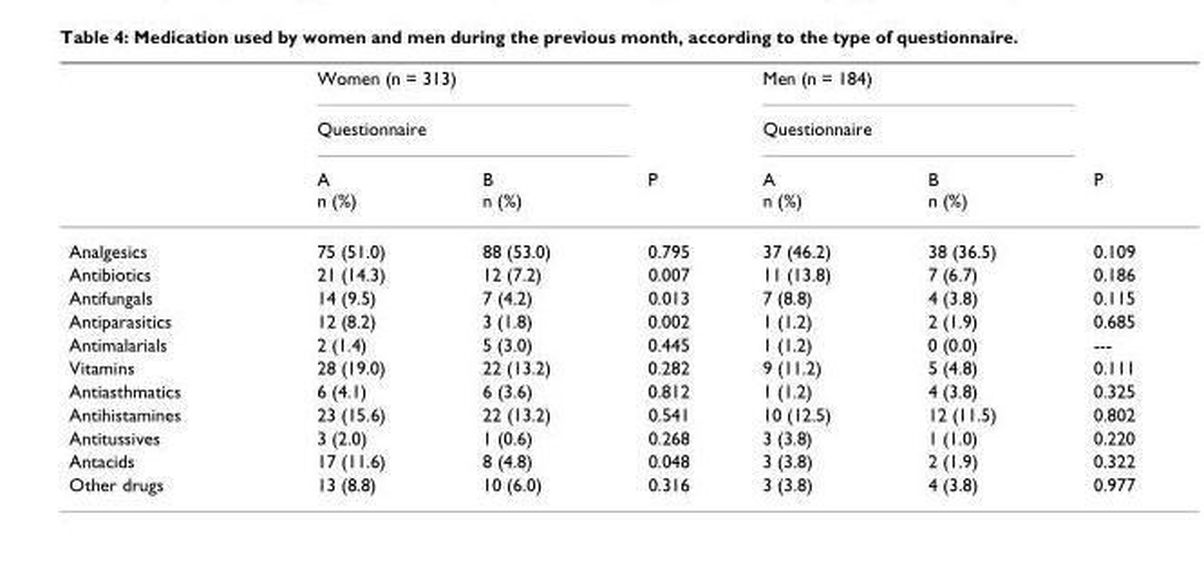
<table><thead><tr><td rowspan="3"></td><td rowspan="2" colspan="2">Women (n = 313) Questionnaire</td><td rowspan="3">P</td><td rowspan="2" colspan="2">Men (n = 184) Questionnaire</td><td rowspan="3">P</td></tr><tr></tr><tr><td>A n (%)</td><td>B n (%)</td><td>A n (%)</td><td>B n (%)</td></tr></thead><tbody><tr><td>Analgesics</td><td>75 (51.0)</td><td>88 (53.0)</td><td>0.795</td><td>37 (46.2)</td><td>38 (36.5)</td><td>0.109</td></tr><tr><td>Antibiotics</td><td>21 (14.3)</td><td>12 (7.2)</td><td>0.007</td><td>11 (13.8)</td><td>7 (6.7)</td><td>0.186</td></tr><tr><td>Antifungals</td><td>14 (9.5)</td><td>7 (4.2)</td><td>0.013</td><td>7 (8.8)</td><td>4 (3.8)</td><td>0.115</td></tr><tr><td>Antiparasitics</td><td>12 (8.2)</td><td>3 (1.8)</td><td>0.002</td><td>1 (1.2)</td><td>2 (1.9)</td><td>0.685</td></tr><tr><td>Antimalarials</td><td>2 (1.4)</td><td>5 (3.0)</td><td>0.445</td><td>1 (1.2)</td><td>0 (0.0)</td><td>---</td></tr><tr><td>Vitamins</td><td>28 (19.0)</td><td>22 (13.2)</td><td>0.282</td><td>9 (11.2)</td><td>5 (4.8)</td><td>0.111</td></tr><tr><td>Antiasthmatics</td><td>6 (4.1)</td><td>6 (3.6)</td><td>0.812</td><td>1 (1.2)</td><td>4 (3.8)</td><td>0.325</td></tr><tr><td>Antihistamines</td><td>23 (15.6)</td><td>22 (13.2)</td><td>0.541</td><td>10 (12.5)</td><td>12 (11.5)</td><td>0.802</td></tr><tr><td>Antitussives</td><td>3 (2.0)</td><td>1 (0.6)</td><td>0.268</td><td>3 (3.8)</td><td>1 (1.0)</td><td>0.220</td></tr><tr><td>Antacids</td><td>17 (11.6)</td><td>8 (4.8)</td><td>0.048</td><td>3 (3.8)</td><td>2 (1.9)</td><td>0.322</td></tr><tr><td>Other drugs</td><td>13 (8.8)</td><td>10 (6.0)</td><td>0.316</td><td>3 (3.8)</td><td>4 (3.8)</td><td>0.977</td></tr></tbody></table>